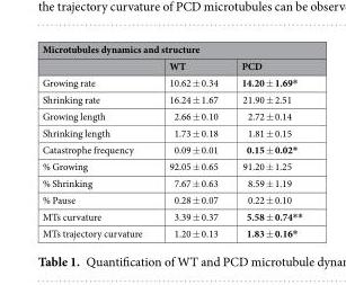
<table><thead><tr><td colspan="3">Microtubules dynamics and structure</td></tr><tr><td></td><td>WT</td><td>PCD</td></tr></thead><tbody><tr><td>Growing rate</td><td>10.62 ± 0.34</td><td>14.20 ± 1.69*</td></tr><tr><td>Shrinking rate</td><td>16.24 ± 1.67</td><td>21.90 ± 2.51</td></tr><tr><td>Growing length</td><td>2.66 ± 0.10</td><td>2.72 ± 0.14</td></tr><tr><td>Shrinking length</td><td>1.73 ± 0.18</td><td>1.81 ± 0.15</td></tr><tr><td>Catastrophe frequency</td><td>0.09 ± 0.01</td><td>0.15 ± 0.02*</td></tr><tr><td>% Growing</td><td>92.05 ± 0.65</td><td>91.20 ± 1.25</td></tr><tr><td>% Shrinking</td><td>7.67 ± 0.63</td><td>8.59 ± 1.19</td></tr><tr><td>% Pause</td><td>0.28 ± 0.07</td><td>0.22 ± 0.10</td></tr><tr><td>MTs curvature</td><td>3.39 ± 0.37</td><td>5.58 ± 0.74**</td></tr><tr><td>MTs trajectory curvature</td><td>1.20 ± 0.13</td><td>1.83 ± 0.16*</td></tr></tbody></table>